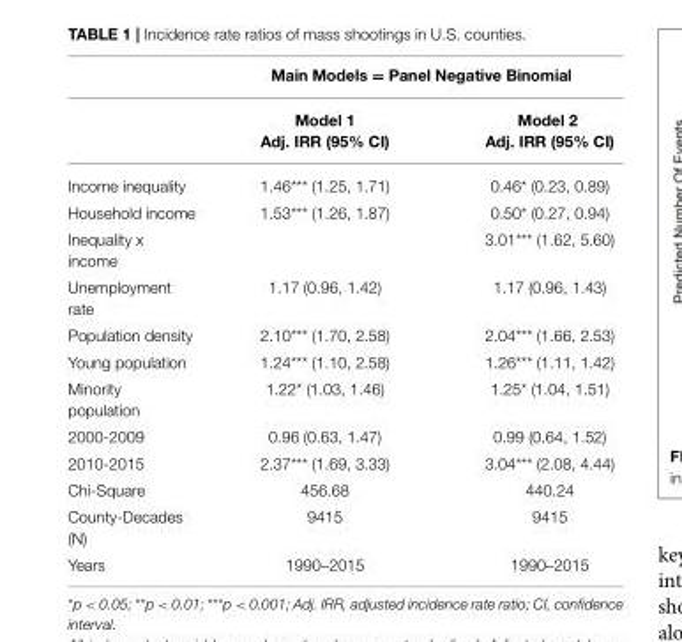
<table><thead><tr><td rowspan="2"></td><td colspan="2">Main Models = Panel Negative Binomial</td></tr><tr><td>Model 1 Adj. IRR (95% CI)</td><td>Model 2 Adj. IRR (95% CI)</td></tr></thead><tbody><tr><td>Income inequality</td><td>1.46*** (1.25, 1.71)</td><td>0.46* (0.23, 0.89)</td></tr><tr><td>Household income</td><td>1.53*** (1.26, 1.87)</td><td>0.50* (0.27, 0.94)</td></tr><tr><td>Inequality x income</td><td></td><td>3.01*** (1.62, 5.60)</td></tr><tr><td>Unemployment rate</td><td>1.17 (0.96, 1.42)</td><td>1.17 (0.96, 1.43)</td></tr><tr><td>Population density</td><td>2.10*** (1.70, 2.58)</td><td>2.04*** (1.66, 2.53)</td></tr><tr><td>Young population</td><td>1.24*** (1.10, 2.58)</td><td>1.26*** (1.11, 1.42)</td></tr><tr><td>Minority population</td><td>1.22* (1.03, 1.46)</td><td>1.25* (1.04, 1.51)</td></tr><tr><td>2000-2009</td><td>0.96 (0.63, 1.47)</td><td>0.99 (0.64, 1.52)</td></tr><tr><td>2010-2015</td><td>2.37*** (1.69, 3.33)</td><td>3.04*** (2.08, 4.44)</td></tr><tr><td>Chi-Square</td><td>456.68</td><td>440.24</td></tr><tr><td>County-Decades (N)</td><td>9415</td><td>9415</td></tr><tr><td>Years</td><td>1990–2015</td><td>1990–2015</td></tr></tbody></table>